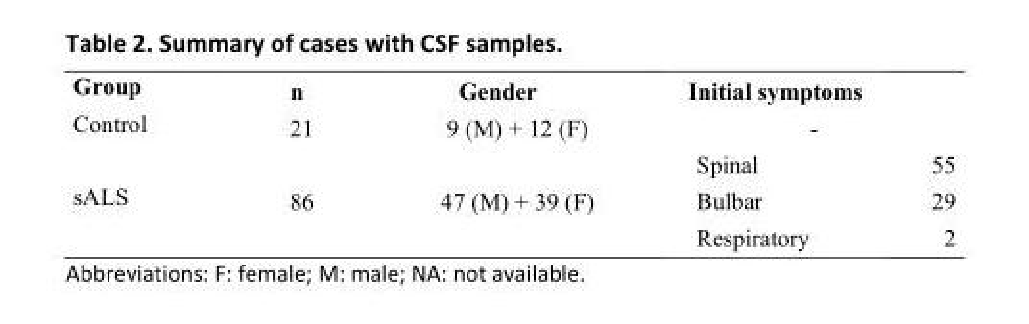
<table><tbody><tr><td>Group</td><td>n</td><td>Gender</td><td>Initial symptoms</td><td></td></tr><tr><td rowspan="2">Control</td><td>21</td><td>9 (M) + 12 (F)</td><td colspan="2">-</td></tr><tr><td rowspan="3">86</td><td rowspan="3">47 (M) + 39 (F)</td><td>Spinal</td><td>55</td></tr><tr><td rowspan="2">sALS</td><td>Bulbar</td><td>29</td></tr><tr><td>Respiratory</td><td>2</td></tr></tbody></table>